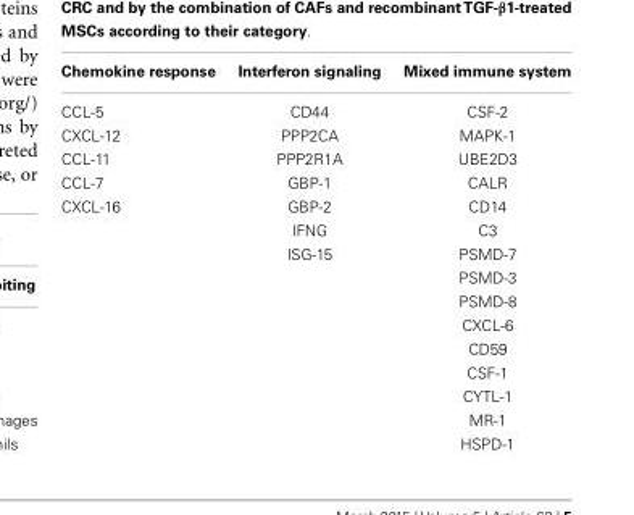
<table><thead><tr><td>Chemokine response</td><td>Interferon signaling</td><td>Mixed immune system</td></tr></thead><tbody><tr><td>CCL-5</td><td>CD44</td><td>CSF-2</td></tr><tr><td>CXCL-12</td><td>PPP2CA</td><td>MAPK-1</td></tr><tr><td>CCL-11</td><td>PPP2R1A</td><td>UBE2D3</td></tr><tr><td>CCL-7</td><td>GBP-1</td><td>CALR</td></tr><tr><td rowspan="11">CXCL-16</td><td>GBP-2</td><td>CD14</td></tr><tr><td>IFNG</td><td>C3</td></tr><tr><td>ISG-15</td><td>PSMD-7</td></tr><tr><td></td><td>PSMD-3</td></tr><tr><td></td><td>PSMD-8</td></tr><tr><td></td><td>CXCL-6</td></tr><tr><td></td><td>CD59</td></tr><tr><td></td><td>CSF-1</td></tr><tr><td></td><td>CYTL-1</td></tr><tr><td></td><td>MR-1</td></tr><tr><td></td><td>HSPD-1</td></tr></tbody></table>